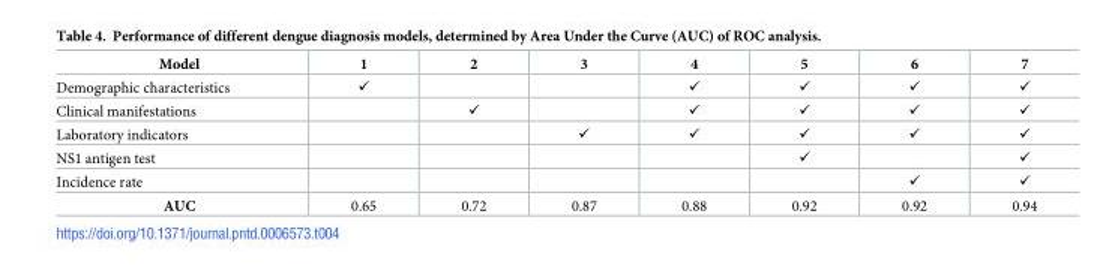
<table><thead><tr><td>Model</td><td>1</td><td>2</td><td>3</td><td>4</td><td>5</td><td>6</td><td>7</td></tr></thead><tbody><tr><td>Demographic characteristics</td><td>✓</td><td></td><td></td><td>✓</td><td>✓</td><td>✓</td><td>✓</td></tr><tr><td>Clinical manifestations</td><td></td><td>✓</td><td></td><td>✓</td><td>✓</td><td>✓</td><td>✓</td></tr><tr><td>Laboratory indicators</td><td></td><td></td><td>✓</td><td>✓</td><td>✓</td><td>✓</td><td>✓</td></tr><tr><td>NS1 antigen test</td><td></td><td></td><td></td><td></td><td>✓</td><td></td><td>✓</td></tr><tr><td>Incidence rate</td><td></td><td></td><td></td><td></td><td></td><td>✓</td><td>✓</td></tr><tr><td>AUC</td><td>0.65</td><td>0.72</td><td>0.87</td><td>0.88</td><td>0.92</td><td>0.92</td><td>0.94</td></tr></tbody></table>